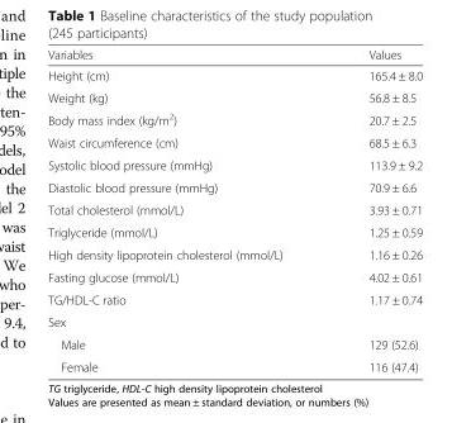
<table><thead><tr><td>Variables</td><td>Values</td></tr></thead><tbody><tr><td>Height (cm)</td><td>165.4 ± 8.0</td></tr><tr><td>Weight (kg)</td><td>56.8 ± 8.5</td></tr><tr><td>Body mass index (kg/m<sup>2</sup>)</td><td>20.7 ± 2.5</td></tr><tr><td>Waist circumference (cm)</td><td>68.5 ± 6.3</td></tr><tr><td>Systolic blood pressure (mmHg)</td><td>113.9 ± 9.2</td></tr><tr><td>Diastolic blood pressure (mmHg)</td><td>70.9 ± 6.6</td></tr><tr><td>Total cholesterol (mmol/L)</td><td>3.93 ± 0.71</td></tr><tr><td>Triglyceride (mmol/L)</td><td>1.25 ± 0.59</td></tr><tr><td>High density lipoprotein cholesterol (mmol/L)</td><td>1.16 ± 0.26</td></tr><tr><td>Fasting glucose (mmol/L)</td><td>4.02 ± 0.61</td></tr><tr><td>TG/HDL-C ratio</td><td>1.17 ± 0.74</td></tr><tr><td colspan="2">Sex</td></tr><tr><td>Male</td><td>129 (52.6)</td></tr><tr><td>Female</td><td>116 (47.4)</td></tr></tbody></table>